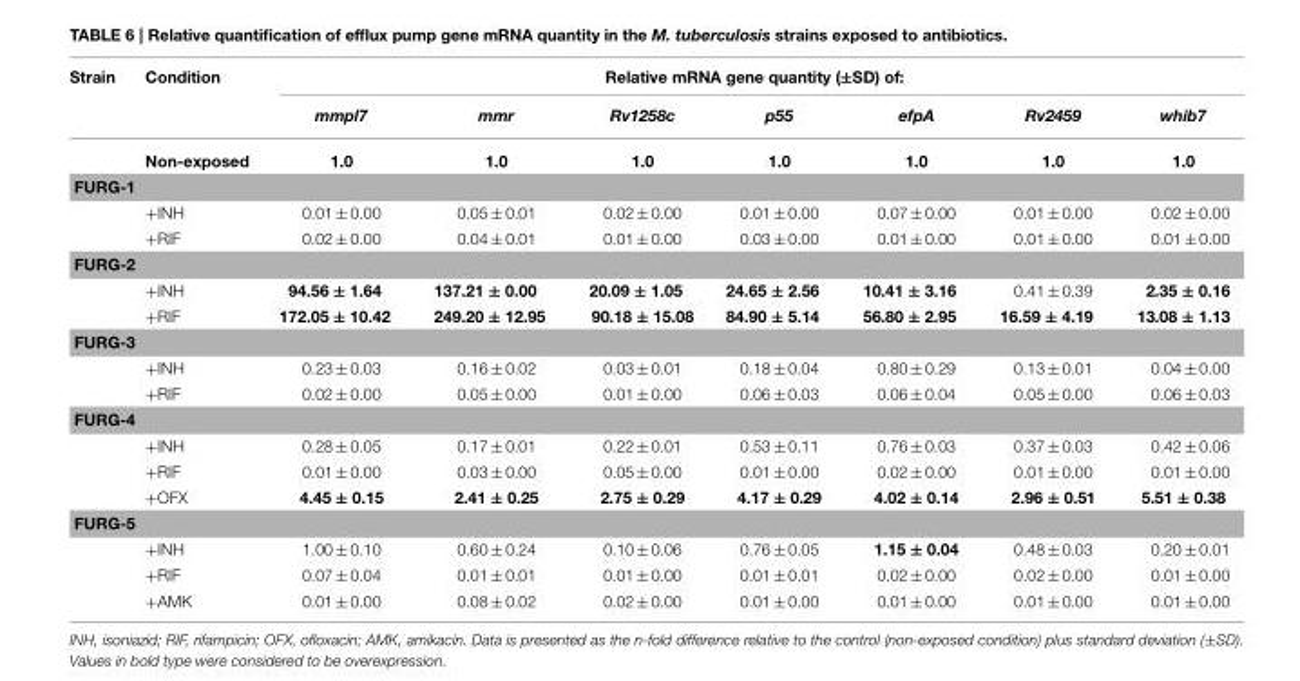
<table><thead><tr><td rowspan="2">Strain</td><td rowspan="2">Condition</td><td colspan="7">Relative mRNA gene quantity (±SD) of:</td></tr><tr><td>mmpl7</td><td>mmr</td><td>Rv1258c</td><td>p55</td><td>efpA</td><td>Rv2459</td><td>whib7</td></tr></thead><tbody><tr><td></td><td>Non-exposed</td><td>1.0</td><td>1.0</td><td>1.0</td><td>1.0</td><td>1.0</td><td>1.0</td><td>1.0</td></tr><tr><td colspan="9">FURG-1</td></tr><tr><td></td><td>+INH</td><td>0.01 ± 0.00</td><td>0.05 ± 0.01</td><td>0.02 ± 0.00</td><td>0.01 ± 0.00</td><td>0.07 ± 0.00</td><td>0.01 ± 0.00</td><td>0.02 ± 0.00</td></tr><tr><td></td><td>+RIF</td><td>0.02 ± 0.00</td><td>0.04 ± 0.01</td><td>0.01 ± 0.00</td><td>0.03 ± 0.00</td><td>0.01 ± 0.00</td><td>0.01 ± 0.00</td><td>0.01 ± 0.00</td></tr><tr><td colspan="9">FURG-2</td></tr><tr><td></td><td>+INH</td><td>94.56 ± 1.64</td><td>137.21 ± 0.00</td><td>20.09 ± 1.05</td><td>24.65 ± 2.56</td><td>10.41 ± 3.16</td><td>0.41 ± 0.39</td><td>2.35 ± 0.16</td></tr><tr><td></td><td>+RIF</td><td>172.05 ± 10.42</td><td>249.20 ± 12.95</td><td>90.18 ± 15.08</td><td>84.90 ± 5.14</td><td>56.80 ± 2.95</td><td>16.59 ± 4.19</td><td>13.08 ± 1.13</td></tr><tr><td colspan="9">FURG-3</td></tr><tr><td></td><td>+INH</td><td>0.23 ± 0.03</td><td>0.16 ± 0.02</td><td>0.03 ± 0.01</td><td>0.18 ± 0.04</td><td>0.80 ± 0.29</td><td>0.13 ± 0.01</td><td>0.04 ± 0.00</td></tr><tr><td></td><td>+RIF</td><td>0.02 ± 0.00</td><td>0.05 ± 0.00</td><td>0.01 ± 0.00</td><td>0.06 ± 0.03</td><td>0.06 ± 0.04</td><td>0.05 ± 0.00</td><td>0.06 ± 0.03</td></tr><tr><td colspan="9">FURG-4</td></tr><tr><td></td><td>+INH</td><td>0.28 ± 0.05</td><td>0.17 ± 0.01</td><td>0.22 ± 0.01</td><td>0.53 ± 0.11</td><td>0.76 ± 0.03</td><td>0.37 ± 0.03</td><td>0.42 ± 0.06</td></tr><tr><td></td><td>+RIF</td><td>0.01 ± 0.00</td><td>0.03 ± 0.00</td><td>0.05 ± 0.00</td><td>0.01 ± 0.00</td><td>0.02 ± 0.00</td><td>0.01 ± 0.00</td><td>0.01 ± 0.00</td></tr><tr><td></td><td>+OFX</td><td>4.45 ± 0.15</td><td>2.41 ± 0.25</td><td>2.75 ± 0.29</td><td>4.17 ± 0.29</td><td>4.02 ± 0.14</td><td>2.96 ± 0.51</td><td>5.51 ± 0.38</td></tr><tr><td colspan="9">FURG-5</td></tr><tr><td></td><td>+INH</td><td>1.00 ± 0.10</td><td>0.60 ± 0.24</td><td>0.10 ± 0.06</td><td>0.76 ± 0.05</td><td>1.15 ± 0.04</td><td>0.48 ± 0.03</td><td>0.20 ± 0.01</td></tr><tr><td></td><td>+RIF</td><td>0.07 ± 0.04</td><td>0.01 ± 0.01</td><td>0.01 ± 0.00</td><td>0.01 ± 0.01</td><td>0.02 ± 0.00</td><td>0.02 ± 0.00</td><td>0.01 ± 0.00</td></tr><tr><td></td><td>+AMK</td><td>0.01 ± 0.00</td><td>0.08 ± 0.02</td><td>0.02 ± 0.00</td><td>0.01 ± 0.00</td><td>0.01 ± 0.00</td><td>0.01 ± 0.00</td><td>0.01 ± 0.00</td></tr></tbody></table>